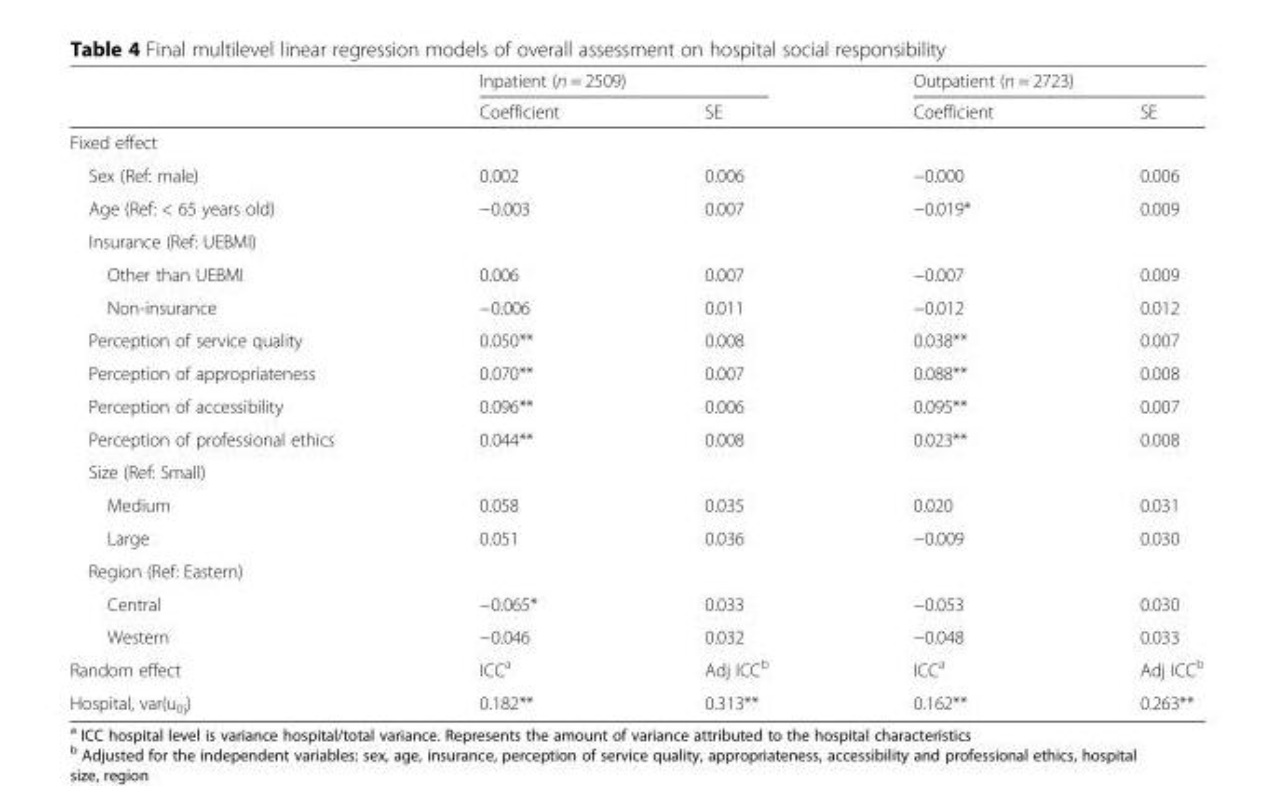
<table><thead><tr><td rowspan="2"></td><td colspan="2">Inpatient (n = 2509)</td><td colspan="2">Outpatient (n = 2723)</td></tr><tr><td>Coefficient</td><td>SE</td><td>Coefficient</td><td>SE</td></tr></thead><tbody><tr><td colspan="5">Fixed effect</td></tr><tr><td>Sex (Ref: male)</td><td>0.002</td><td>0.006</td><td>−0.000</td><td>0.006</td></tr><tr><td>Age (Ref: &lt; 65 years old)</td><td>−0.003</td><td>0.007</td><td>−0.019*</td><td>0.009</td></tr><tr><td colspan="5">Insurance (Ref: UEBMI)</td></tr><tr><td>Other than UEBMI</td><td>0.006</td><td>0.007</td><td>−0.007</td><td>0.009</td></tr><tr><td>Non-insurance</td><td>−0.006</td><td>0.011</td><td>−0.012</td><td>0.012</td></tr><tr><td>Perception of service quality</td><td>0.050**</td><td>0.008</td><td>0.038**</td><td>0.007</td></tr><tr><td>Perception of appropriateness</td><td>0.070**</td><td>0.007</td><td>0.088**</td><td>0.008</td></tr><tr><td>Perception of accessibility</td><td>0.096**</td><td>0.006</td><td>0.095**</td><td>0.007</td></tr><tr><td>Perception of professional ethics</td><td>0.044**</td><td>0.008</td><td>0.023**</td><td>0.008</td></tr><tr><td colspan="5">Size (Ref: Small)</td></tr><tr><td>Medium</td><td>0.058</td><td>0.035</td><td>0.020</td><td>0.031</td></tr><tr><td>Large</td><td>0.051</td><td>0.036</td><td>−0.009</td><td>0.030</td></tr><tr><td colspan="5">Region (Ref: Eastern)</td></tr><tr><td>Central</td><td>−0.065*</td><td>0.033</td><td>−0.053</td><td>0.030</td></tr><tr><td>Western</td><td>−0.046</td><td>0.032</td><td>−0.048</td><td>0.033</td></tr><tr><td>Random effect</td><td>ICC<sup>a</sup></td><td>Adj ICC<sup>b</sup></td><td>ICC<sup>a</sup></td><td>Adj ICC<sup>b</sup></td></tr><tr><td>Hospital, var(u<sub>0j</sub>)</td><td>0.182**</td><td>0.313**</td><td>0.162**</td><td>0.263**</td></tr></tbody></table>